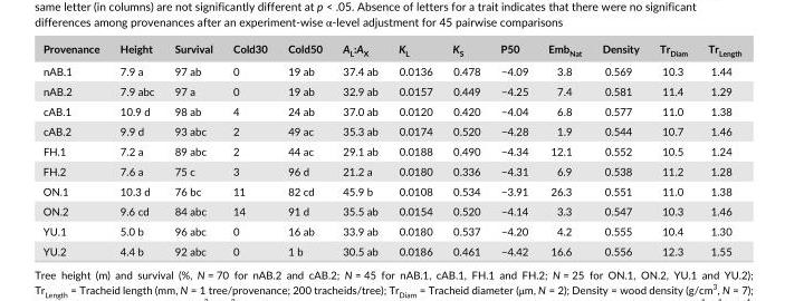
<table><thead><tr><td>Provenance</td><td>Height</td><td>Survival</td><td>Cold30</td><td>Cold50</td><td>A<sub>L</sub>:A<sub>X</sub></td><td>K<sub>L</sub></td><td>K<sub>S</sub></td><td>P50</td><td>Emb<sub>Nat</sub></td><td>Density</td><td>Tr<sub>Diam</sub></td><td>Tr<sub>Length</sub></td></tr></thead><tbody><tr><td>nAB.1</td><td>7.9 a</td><td>97 ab</td><td>0</td><td>19 ab</td><td>37.4 ab</td><td>0.0136</td><td>0.478</td><td>−4.09</td><td>3.8</td><td>0.569</td><td>10.3</td><td>1.44</td></tr><tr><td>nAB.2</td><td>7.9 abc</td><td>97 a</td><td>0</td><td>19 ab</td><td>32.9 ab</td><td>0.0157</td><td>0.449</td><td>−4.25</td><td>7.4</td><td>0.581</td><td>11.4</td><td>1.29</td></tr><tr><td>cAB.1</td><td>10.9 d</td><td>98 ab</td><td>4</td><td>24 ab</td><td>37.0 ab</td><td>0.0120</td><td>0.420</td><td>−4.04</td><td>6.8</td><td>0.577</td><td>11.0</td><td>1.38</td></tr><tr><td>cAB.2</td><td>9.9 d</td><td>93 abc</td><td>2</td><td>49 ac</td><td>35.3 ab</td><td>0.0174</td><td>0.520</td><td>−4.28</td><td>1.9</td><td>0.544</td><td>10.7</td><td>1.46</td></tr><tr><td>FH.1</td><td>7.2 a</td><td>89 abc</td><td>2</td><td>44 ac</td><td>29.1 ab</td><td>0.0188</td><td>0.490</td><td>−4.34</td><td>12.1</td><td>0.552</td><td>10.5</td><td>1.24</td></tr><tr><td>FH.2</td><td>7.6 a</td><td>75 c</td><td>3</td><td>96 d</td><td>21.2 a</td><td>0.0180</td><td>0.336</td><td>−4.31</td><td>6.9</td><td>0.538</td><td>11.2</td><td>1.28</td></tr><tr><td>ON.1</td><td>10.3 d</td><td>76 bc</td><td>11</td><td>82 cd</td><td>45.9 b</td><td>0.0108</td><td>0.534</td><td>−3.91</td><td>26.3</td><td>0.551</td><td>11.0</td><td>1.38</td></tr><tr><td>ON.2</td><td>9.6 cd</td><td>84 abc</td><td>14</td><td>91 d</td><td>35.5 ab</td><td>0.0154</td><td>0.520</td><td>−4.14</td><td>3.3</td><td>0.547</td><td>10.3</td><td>1.46</td></tr><tr><td>YU.1</td><td>5.0 b</td><td>96 abc</td><td>0</td><td>16 ab</td><td>33.9 ab</td><td>0.0180</td><td>0.537</td><td>−4.20</td><td>4.2</td><td>0.555</td><td>10.4</td><td>1.30</td></tr><tr><td>YU.2</td><td>4.4 b</td><td>92 abc</td><td>0</td><td>1 b</td><td>30.5 ab</td><td>0.0186</td><td>0.461</td><td>−4.42</td><td>16.6</td><td>0.556</td><td>12.3</td><td>1.55</td></tr></tbody></table>